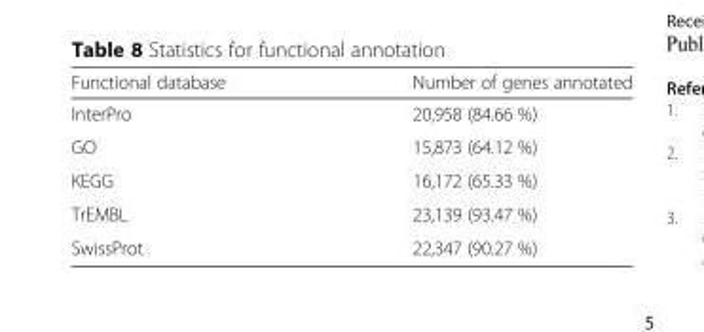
<table><thead><tr><td>Functional database</td><td>Number of genes annotated</td></tr></thead><tbody><tr><td>InterPro</td><td>20,958 (84.66 %)</td></tr><tr><td>GO</td><td>15,873 (64.12 %)</td></tr><tr><td>KEGG</td><td>16,172 (65.33 %)</td></tr><tr><td>TrEMBL</td><td>23,139 (93.47 %)</td></tr><tr><td>SwissProt</td><td>22,347 (90.27 %)</td></tr></tbody></table>